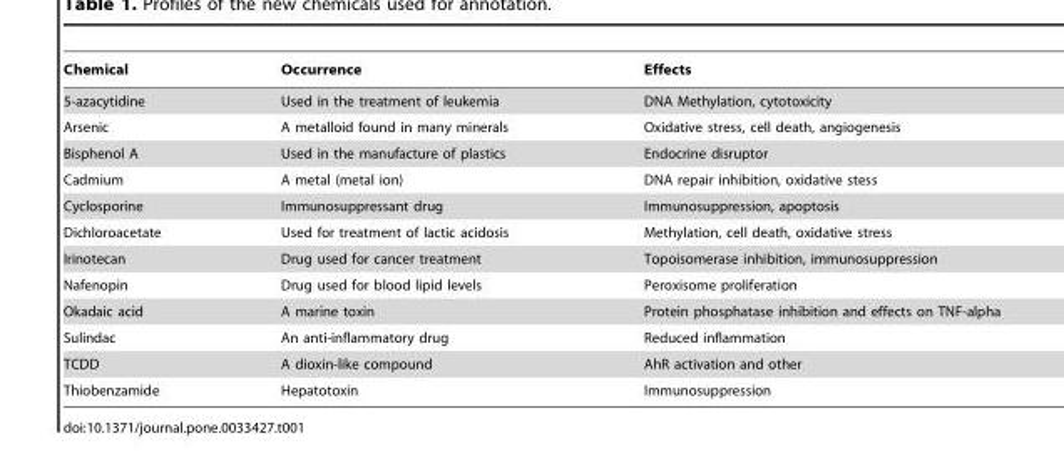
<table><thead><tr><td>Chemical</td><td>Occurrence</td><td>Effects</td></tr></thead><tbody><tr><td>5-azacytidine</td><td>Used in the treatment of leukemia</td><td>DNA Methylation, cytotoxicity</td></tr><tr><td>Arsenic</td><td>A metalloid found in many minerals</td><td>Oxidative stress, cell death, angiogenesis</td></tr><tr><td>Bisphenol A</td><td>Used in the manufacture of plastics</td><td>Endocrine disruptor</td></tr><tr><td>Cadmium</td><td>A metal (metal ion)</td><td>DNA repair inhibition, oxidative stess</td></tr><tr><td>Cyclosporine</td><td>Immunosuppressant drug</td><td>Immunosuppression, apoptosis</td></tr><tr><td>Dichloroacetate</td><td>Used for treatment of lactic acidosis</td><td>Methylation, cell death, oxidative stress</td></tr><tr><td>Irinotecan</td><td>Drug used for cancer treatment</td><td>Topoisomerase inhibition, immunosuppression</td></tr><tr><td>Nafenopin</td><td>Drug used for blood lipid levels</td><td>Peroxisome proliferation</td></tr><tr><td>Okadaic acid</td><td>A marine toxin</td><td>Protein phosphatase inhibition and effects on TNF-alpha</td></tr><tr><td>Sulindac</td><td>An anti-inflammatory drug</td><td>Reduced inflammation</td></tr><tr><td>TCDD</td><td>A dioxin-like compound</td><td>AhR activation and other</td></tr><tr><td>Thiobenzamide</td><td>Hepatotoxin</td><td>Immunosuppression</td></tr></tbody></table>